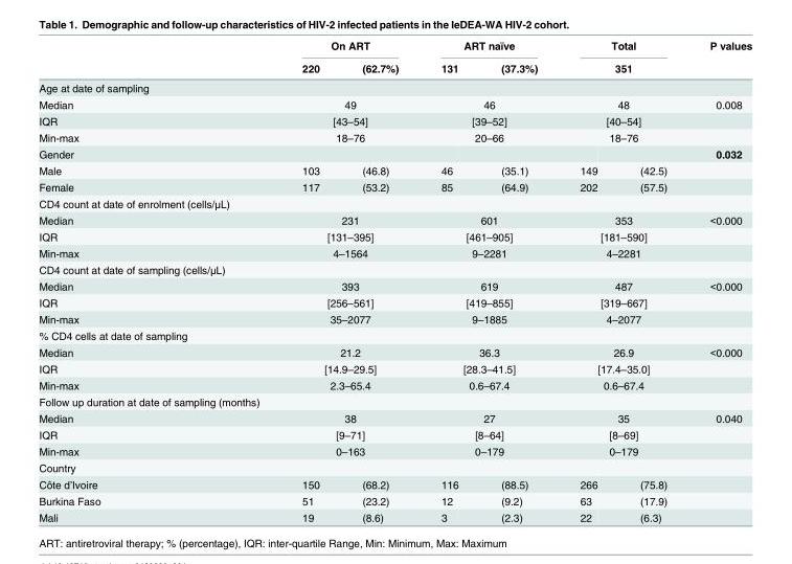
<table><thead><tr><td rowspan="2"></td><td colspan="2">On ART</td><td colspan="2">ART naïve</td><td rowspan="2" colspan="2">Total 351</td><td rowspan="2">P values</td></tr><tr><td>220</td><td>(62.7%)</td><td>131</td><td>(37.3%)</td></tr></thead><tbody><tr><td colspan="8">Age at date of sampling</td></tr><tr><td>Median</td><td colspan="2">49</td><td colspan="2">46</td><td colspan="2">48</td><td>0.008</td></tr><tr><td>IQR</td><td colspan="2">[43–54]</td><td colspan="2">[39–52]</td><td colspan="2">[40–54]</td><td></td></tr><tr><td>Min-max</td><td colspan="2">18–76</td><td colspan="2">20–66</td><td colspan="2">18–76</td><td></td></tr><tr><td>Gender</td><td></td><td></td><td></td><td></td><td></td><td></td><td>0.032</td></tr><tr><td>Male</td><td>103</td><td>(46.8)</td><td>46</td><td>(35.1)</td><td>149</td><td>(42.5)</td><td></td></tr><tr><td>Female</td><td>117</td><td>(53.2)</td><td>85</td><td>(64.9)</td><td>202</td><td>(57.5)</td><td></td></tr><tr><td colspan="8">CD4 count at date of enrolment (cells/μL)</td></tr><tr><td>Median</td><td colspan="2">231</td><td colspan="2">601</td><td colspan="2">353</td><td>&lt;0.000</td></tr><tr><td>IQR</td><td colspan="2">[131–395]</td><td colspan="2">[461–905]</td><td colspan="2">[181–590]</td><td></td></tr><tr><td>Min-max</td><td colspan="2">4–1564</td><td colspan="2">9–2281</td><td colspan="2">4–2281</td><td></td></tr><tr><td colspan="8">CD4 count at date of sampling (cells/μL)</td></tr><tr><td>Median</td><td colspan="2">393</td><td colspan="2">619</td><td colspan="2">487</td><td>&lt;0.000</td></tr><tr><td>IQR</td><td colspan="2">[256–561]</td><td colspan="2">[419–855]</td><td colspan="2">[319–667]</td><td></td></tr><tr><td>Min-max</td><td colspan="2">35–2077</td><td colspan="2">9–1885</td><td colspan="2">4–2077</td><td></td></tr><tr><td colspan="8">% CD4 cells at date of sampling</td></tr><tr><td>Median</td><td colspan="2">21.2</td><td colspan="2">36.3</td><td colspan="2">26.9</td><td>&lt;0.000</td></tr><tr><td>IQR</td><td colspan="2">[14.9–29.5]</td><td colspan="2">[28.3–41.5]</td><td colspan="2">[17.4–35.0]</td><td></td></tr><tr><td>Min-max</td><td colspan="2">2.3–65.4</td><td colspan="2">0.6–67.4</td><td colspan="2">0.6–67.4</td><td></td></tr><tr><td colspan="8">Follow up duration at date of sampling (months)</td></tr><tr><td>Median</td><td colspan="2">38</td><td colspan="2">27</td><td colspan="2">35</td><td>0.040</td></tr><tr><td>IQR</td><td colspan="2">[9–71]</td><td colspan="2">[8–64]</td><td colspan="2">[8–69]</td><td></td></tr><tr><td>Min-max</td><td colspan="2">0–163</td><td colspan="2">0–179</td><td colspan="2">0–179</td><td></td></tr><tr><td colspan="8">Country</td></tr><tr><td>Côte d’Ivoire</td><td>150</td><td>(68.2)</td><td>116</td><td>(88.5)</td><td>266</td><td>(75.8)</td><td></td></tr><tr><td>Burkina Faso</td><td>51</td><td>(23.2)</td><td>12</td><td>(9.2)</td><td>63</td><td>(17.9)</td><td></td></tr><tr><td>Mali</td><td>19</td><td>(8.6)</td><td>3</td><td>(2.3)</td><td>22</td><td>(6.3)</td><td></td></tr></tbody></table>